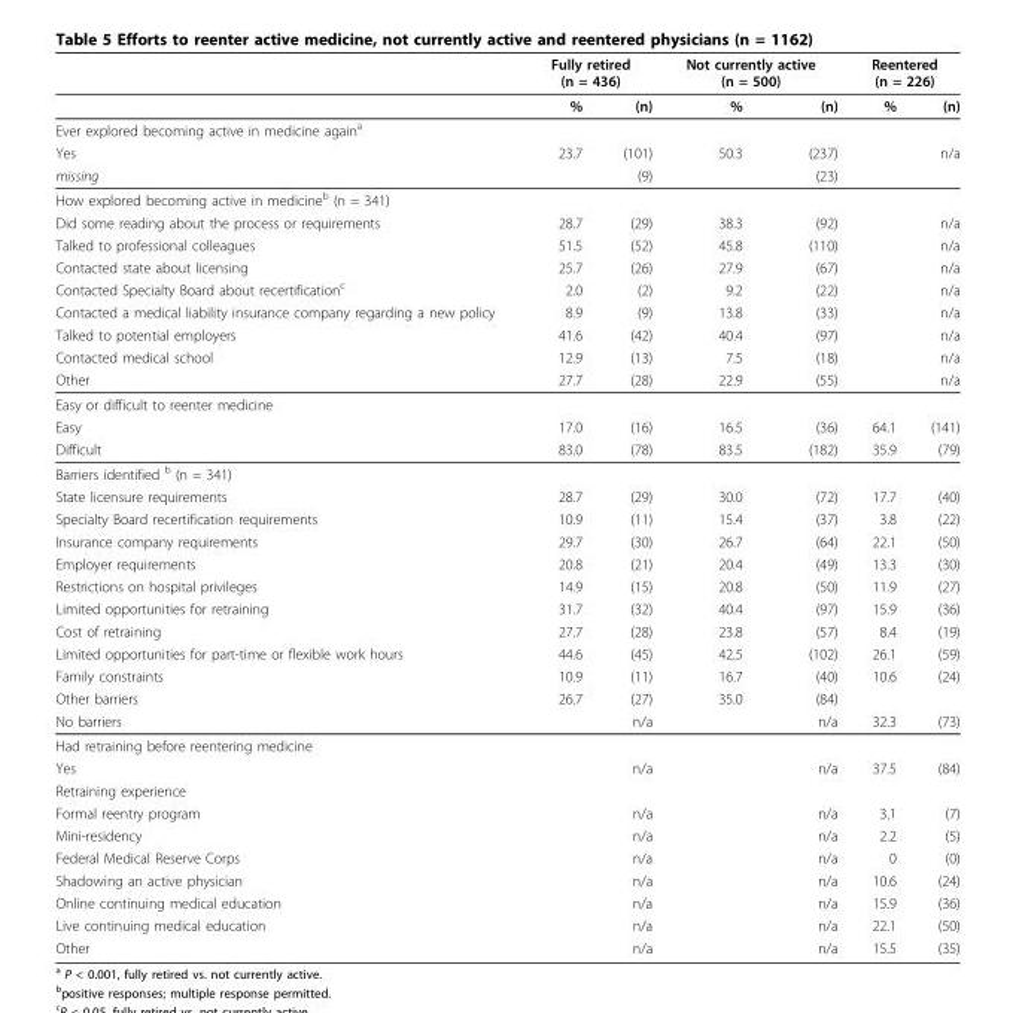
<table><thead><tr><td rowspan="2"></td><td colspan="2">Fully retired (n = 436)</td><td colspan="2">Not currently active (n = 500)</td><td colspan="2">Reentered (n = 226)</td></tr><tr><td>%</td><td>(n)</td><td>%</td><td>(n)</td><td>%</td><td>(n)</td></tr></thead><tbody><tr><td colspan="7">Ever explored becoming active in medicine again<sup>a</sup></td></tr><tr><td>Yes</td><td>23.7</td><td>(101)</td><td>50.3</td><td>(237)</td><td></td><td>n/a</td></tr><tr><td>missing</td><td></td><td>(9)</td><td></td><td>(23)</td><td></td><td></td></tr><tr><td colspan="7">How explored becoming active in medicine<sup>b</sup> (n = 341)</td></tr><tr><td>Did some reading about the process or requirements</td><td>28.7</td><td>(29)</td><td>38.3</td><td>(92)</td><td></td><td>n/a</td></tr><tr><td>Talked to professional colleagues</td><td>51.5</td><td>(52)</td><td>45.8</td><td>(110)</td><td></td><td>n/a</td></tr><tr><td>Contacted state about licensing</td><td>25.7</td><td>(26)</td><td>27.9</td><td>(67)</td><td></td><td>n/a</td></tr><tr><td>Contacted Specialty Board about recertification<sup>c</sup></td><td>2.0</td><td>(2)</td><td>9.2</td><td>(22)</td><td></td><td>n/a</td></tr><tr><td>Contacted a medical liability insurance company regarding a new policy</td><td>8.9</td><td>(9)</td><td>13.8</td><td>(33)</td><td></td><td>n/a</td></tr><tr><td>Talked to potential employers</td><td>41.6</td><td>(42)</td><td>40.4</td><td>(97)</td><td></td><td>n/a</td></tr><tr><td>Contacted medical school</td><td>12.9</td><td>(13)</td><td>7.5</td><td>(18)</td><td></td><td>n/a</td></tr><tr><td>Other</td><td>27.7</td><td>(28)</td><td>22.9</td><td>(55)</td><td></td><td>n/a</td></tr><tr><td colspan="7">Easy or difficult to reenter medicine</td></tr><tr><td>Easy</td><td>17.0</td><td>(16)</td><td>16.5</td><td>(36)</td><td>64.1</td><td>(141)</td></tr><tr><td>Difficult</td><td>83.0</td><td>(78)</td><td>83.5</td><td>(182)</td><td>35.9</td><td>(79)</td></tr><tr><td colspan="7">Barriers identified <sup>b</sup> (n = 341)</td></tr><tr><td>State licensure requirements</td><td>28.7</td><td>(29)</td><td>30.0</td><td>(72)</td><td>17.7</td><td>(40)</td></tr><tr><td>Specialty Board recertification requirements</td><td>10.9</td><td>(11)</td><td>15.4</td><td>(37)</td><td>3.8</td><td>(22)</td></tr><tr><td>Insurance company requirements</td><td>29.7</td><td>(30)</td><td>26.7</td><td>(64)</td><td>22.1</td><td>(50)</td></tr><tr><td>Employer requirements</td><td>20.8</td><td>(21)</td><td>20.4</td><td>(49)</td><td>13.3</td><td>(30)</td></tr><tr><td>Restrictions on hospital privileges</td><td>14.9</td><td>(15)</td><td>20.8</td><td>(50)</td><td>11.9</td><td>(27)</td></tr><tr><td>Limited opportunities for retraining</td><td>31.7</td><td>(32)</td><td>40.4</td><td>(97)</td><td>15.9</td><td>(36)</td></tr><tr><td>Cost of retraining</td><td>27.7</td><td>(28)</td><td>23.8</td><td>(57)</td><td>8.4</td><td>(19)</td></tr><tr><td>Limited opportunities for part-time or flexible work hours</td><td>44.6</td><td>(45)</td><td>42.5</td><td>(102)</td><td>26.1</td><td>(59)</td></tr><tr><td>Family constraints</td><td>10.9</td><td>(11)</td><td>16.7</td><td>(40)</td><td>10.6</td><td>(24)</td></tr><tr><td>Other barriers</td><td>26.7</td><td>(27)</td><td>35.0</td><td>(84)</td><td></td><td></td></tr><tr><td>No barriers</td><td></td><td>n/a</td><td></td><td>n/a</td><td>32.3</td><td>(73)</td></tr><tr><td colspan="7">Had retraining before reentering medicine</td></tr><tr><td>Yes</td><td></td><td>n/a</td><td></td><td>n/a</td><td>37.5</td><td>(84)</td></tr><tr><td colspan="7">Retraining experience</td></tr><tr><td>Formal reentry program</td><td></td><td>n/a</td><td></td><td>n/a</td><td>3.1</td><td>(7)</td></tr><tr><td>Mini-residency</td><td></td><td>n/a</td><td></td><td>n/a</td><td>2.2</td><td>(5)</td></tr><tr><td>Federal Medical Reserve Corps</td><td></td><td>n/a</td><td></td><td>n/a</td><td>0</td><td>(0)</td></tr><tr><td>Shadowing an active physician</td><td></td><td>n/a</td><td></td><td>n/a</td><td>10.6</td><td>(24)</td></tr><tr><td>Online continuing medical education</td><td></td><td>n/a</td><td></td><td>n/a</td><td>15.9</td><td>(36)</td></tr><tr><td>Live continuing medical education</td><td></td><td>n/a</td><td></td><td>n/a</td><td>22.1</td><td>(50)</td></tr><tr><td>Other</td><td></td><td>n/a</td><td></td><td>n/a</td><td>15.5</td><td>(35)</td></tr></tbody></table>